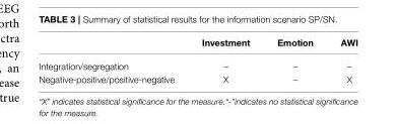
<table><thead><tr><td></td><td>Investment</td><td>Emotion</td><td>AWI</td></tr></thead><tbody><tr><td>Integration/segregation</td><td>–</td><td>–</td><td>–</td></tr><tr><td>Negative-positive/positive-negative</td><td>X</td><td>–</td><td>X</td></tr></tbody></table>